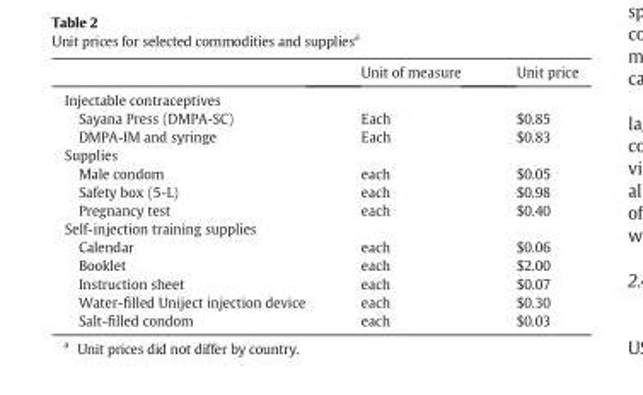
<table><thead><tr><td></td><td>Unit of measure</td><td>Unit price</td></tr></thead><tbody><tr><td colspan="3">Injectable contraceptives</td></tr><tr><td>Sayana Press (DMPA-SC)</td><td>Each</td><td>$0.85</td></tr><tr><td>DMPA-IM and syringe</td><td>Each</td><td>$0.83</td></tr><tr><td colspan="3">Supplies</td></tr><tr><td>Male condom</td><td>each</td><td>$0.05</td></tr><tr><td>Safety box (5-L)</td><td>each</td><td>$0.98</td></tr><tr><td>Pregnancy test</td><td>each</td><td>$0.40</td></tr><tr><td colspan="3">Self-injection training supplies</td></tr><tr><td>Calendar</td><td>each</td><td>$0.06</td></tr><tr><td>Booklet</td><td>each</td><td>$2.00</td></tr><tr><td>Instruction sheet</td><td>each</td><td>$0.07</td></tr><tr><td>Water-filled Uniject injection device</td><td>each</td><td>$0.30</td></tr><tr><td>Salt-filled condom</td><td>each</td><td>$0.03</td></tr></tbody></table>